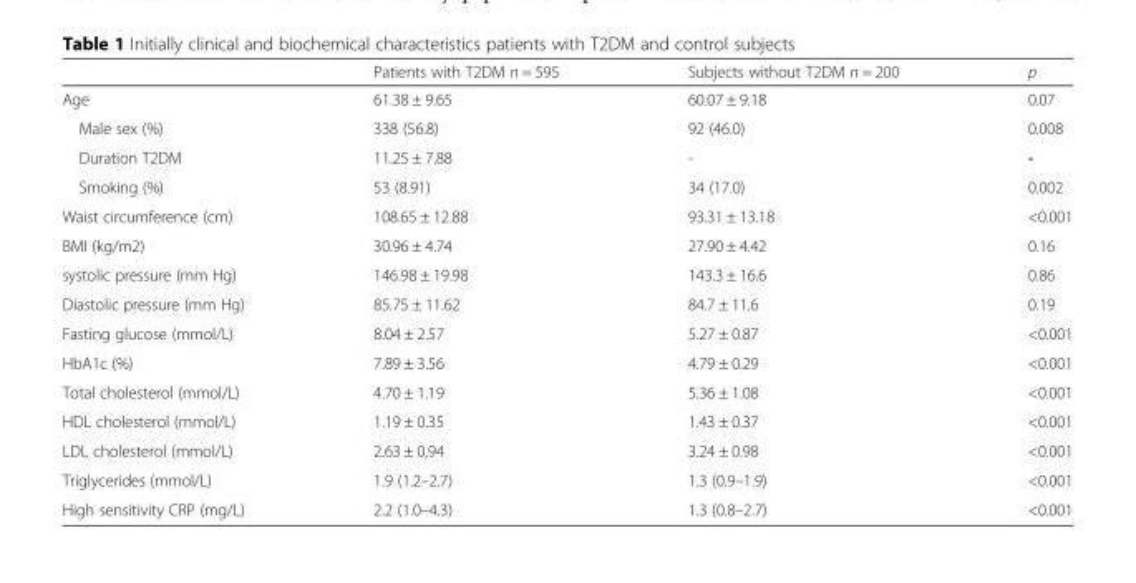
<table><thead><tr><td></td><td>Patients with T2DM n = 595</td><td>Subjects without T2DM n = 200</td><td>p</td></tr></thead><tbody><tr><td>Age</td><td>61.38 ± 9.65</td><td>60.07 ± 9.18</td><td>0.07</td></tr><tr><td>Male sex (%)</td><td>338 (56.8)</td><td>92 (46.0)</td><td>0.008</td></tr><tr><td>Duration T2DM</td><td>11.25 ± 7.88</td><td>-</td><td>-</td></tr><tr><td>Smoking (%)</td><td>53 (8.91)</td><td>34 (17.0)</td><td>0.002</td></tr><tr><td>Waist circumference (cm)</td><td>108.65 ± 12.88</td><td>93.31 ± 13.18</td><td>&lt;0.001</td></tr><tr><td>BMI (kg/m2)</td><td>30.96 ± 4.74</td><td>27.90 ± 4.42</td><td>0.16</td></tr><tr><td>systolic pressure (mm Hg)</td><td>146.98 ± 19.98</td><td>143.3 ± 16.6</td><td>0.86</td></tr><tr><td>Diastolic pressure (mm Hg)</td><td>85.75 ± 11.62</td><td>84.7 ± 11.6</td><td>0.19</td></tr><tr><td>Fasting glucose (mmol/L)</td><td>8.04 ± 2.57</td><td>5.27 ± 0.87</td><td>&lt;0.001</td></tr><tr><td>HbA1c (%)</td><td>7.89 ± 3.56</td><td>4.79 ± 0.29</td><td>&lt;0.001</td></tr><tr><td>Total cholesterol (mmol/L)</td><td>4.70 ± 1.19</td><td>5.36 ± 1.08</td><td>&lt;0.001</td></tr><tr><td>HDL cholesterol (mmol/L)</td><td>1.19 ± 0.35</td><td>1.43 ± 0.37</td><td>&lt;0.001</td></tr><tr><td>LDL cholesterol (mmol/L)</td><td>2.63 ± 0,94</td><td>3.24 ± 0.98</td><td>&lt;0.001</td></tr><tr><td>Triglycerides (mmol/L)</td><td>1.9 (1.2–2.7)</td><td>1.3 (0.9–1.9)</td><td>&lt;0.001</td></tr><tr><td>High sensitivity CRP (mg/L)</td><td>2.2 (1.0–4.3)</td><td>1.3 (0.8–2.7)</td><td>&lt;0.001</td></tr></tbody></table>